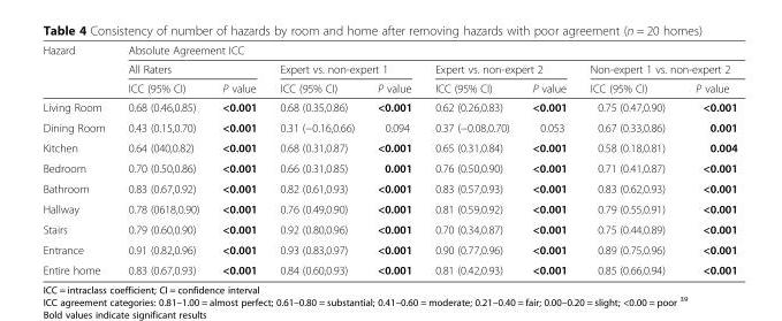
<table><thead><tr><td rowspan="3">Hazard</td><td colspan="8">Absolute Agreement ICC</td></tr><tr><td colspan="2">All Raters</td><td colspan="2">Expert vs. non-expert 1</td><td colspan="2">Expert vs. non-expert 2</td><td colspan="2">Non-expert 1 vs. non-expert 2</td></tr><tr><td>ICC (95% CI)</td><td>P value</td><td>ICC (95% CI)</td><td>P value</td><td>ICC (95% CI)</td><td>P value</td><td>ICC (95% CI)</td><td>P value</td></tr></thead><tbody><tr><td>Living Room</td><td>0.68 (0.46,0.85)</td><td>&lt;0.001</td><td>0.68 (0.35,0.86)</td><td>&lt;0.001</td><td>0.62 (0.26,0.83)</td><td>&lt;0.001</td><td>0.75 (0.47,0.90)</td><td>&lt;0.001</td></tr><tr><td>Dining Room</td><td>0.43 (0.15,0.70)</td><td>&lt;0.001</td><td>0.31 (−0.16,0.66)</td><td>0.094</td><td>0.37 (−0.08,0.70)</td><td>0.053</td><td>0.67 (0.33,0.86)</td><td>0.001</td></tr><tr><td>Kitchen</td><td>0.64 (040,0.82)</td><td>&lt;0.001</td><td>0.68 (0.31,0.87)</td><td>&lt;0.001</td><td>0.65 (0.31,0.84)</td><td>&lt;0.001</td><td>0.58 (0.18,0.81)</td><td>0.004</td></tr><tr><td>Bedroom</td><td>0.70 (0.50,0.86)</td><td>&lt;0.001</td><td>0.66 (0.31,0.85)</td><td>0.001</td><td>0.76 (0.50,0.90)</td><td>&lt;0.001</td><td>0.71 (0.41,0.87)</td><td>&lt;0.001</td></tr><tr><td>Bathroom</td><td>0.83 (0.67,0.92)</td><td>&lt;0.001</td><td>0.82 (0.61,0.93)</td><td>&lt;0.001</td><td>0.83 (0.57,0.93)</td><td>&lt;0.001</td><td>0.83 (0.62,0.93)</td><td>&lt;0.001</td></tr><tr><td>Hallway</td><td>0.78 (0618,0.90)</td><td>&lt;0.001</td><td>0.76 (0.49,0.90)</td><td>&lt;0.001</td><td>0.81 (0.59,0.92)</td><td>&lt;0.001</td><td>0.79 (0.55,0.91)</td><td>&lt;0.001</td></tr><tr><td>Stairs</td><td>0.79 (0.60,0.90)</td><td>&lt;0.001</td><td>0.92 (0.80,0.96)</td><td>&lt;0.001</td><td>0.70 (0.34,0.87)</td><td>&lt;0.001</td><td>0.75 (0.44,0.89)</td><td>&lt;0.001</td></tr><tr><td>Entrance</td><td>0.91 (0.82,0.96)</td><td>&lt;0.001</td><td>0.93 (0.83,0.97)</td><td>&lt;0.001</td><td>0.90 (0.77,0.96)</td><td>&lt;0.001</td><td>0.89 (0.75,0.96)</td><td>&lt;0.001</td></tr><tr><td>Entire home</td><td>0.83 (0.67,0.93)</td><td>&lt;0.001</td><td>0.84 (0.60,0.93)</td><td>&lt;0.001</td><td>0.81 (0.42,0.93)</td><td>&lt;0.001</td><td>0.85 (0.66,0.94)</td><td>&lt;0.001</td></tr></tbody></table>